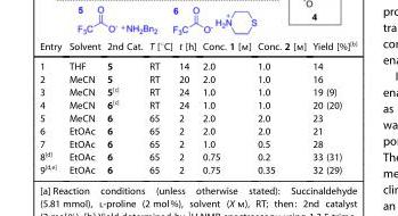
<table><thead><tr><td>Entry</td><td>Solvent</td><td>2nd Cat.</td><td>T [°C]</td><td>t [h]</td><td>Conc. 1 [m]</td><td>Conc. 2 [m]</td><td>Yield [%]<sup>[b]</sup></td></tr></thead><tbody><tr><td>1</td><td>THF</td><td>5</td><td>RT</td><td>14</td><td>2.0</td><td>1.0</td><td>14</td></tr><tr><td>2</td><td>MeCN</td><td>5</td><td>RT</td><td>20</td><td>2.0</td><td>1.0</td><td>16</td></tr><tr><td>3</td><td>MeCN</td><td>5<sup>[c]</sup></td><td>RT</td><td>24</td><td>1.0</td><td>1.0</td><td>19 (9)</td></tr><tr><td>4</td><td>MeCN</td><td>6<sup>[c]</sup></td><td>RT</td><td>24</td><td>1.0</td><td>1.0</td><td>20 (20)</td></tr><tr><td>5</td><td>MeCN</td><td>6</td><td>65</td><td>2</td><td>2.0</td><td>2.0</td><td>23</td></tr><tr><td>6</td><td>EtOAc</td><td>6</td><td>65</td><td>2</td><td>2.0</td><td>2.0</td><td>21</td></tr><tr><td>7</td><td>EtOAc</td><td>6</td><td>65</td><td>2</td><td>1.0</td><td>0.5</td><td>28</td></tr><tr><td>8<sup>[d]</sup></td><td>EtOAc</td><td>6</td><td>65</td><td>2</td><td>0.75</td><td>0.2</td><td>33 (31)</td></tr><tr><td>9<sup>[d,e]</sup></td><td>EtOAc</td><td>6</td><td>65</td><td>2</td><td>0.75</td><td>0.35</td><td>32 (29)</td></tr></tbody></table>